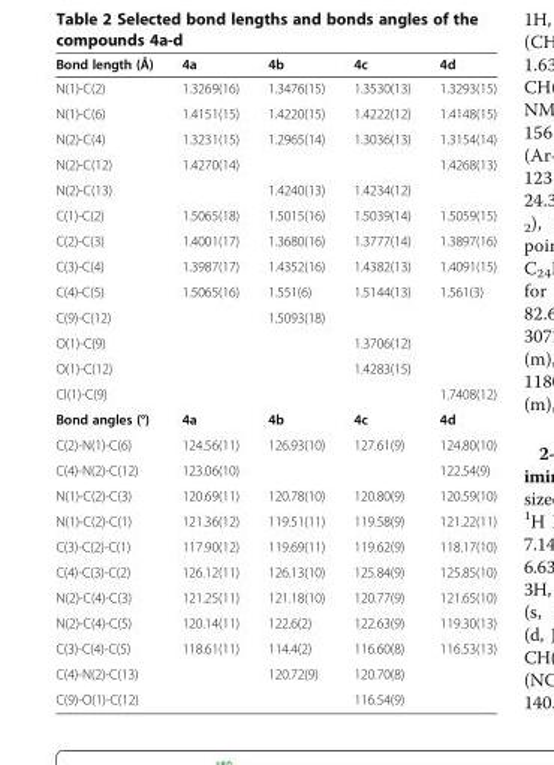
<table><thead><tr><td>Bond length (Å)</td><td>4a</td><td>4b</td><td>4c</td><td>4d</td></tr></thead><tbody><tr><td>N(1)-C(2)</td><td>1.3269(16)</td><td>1.3476(15)</td><td>1.3530(13)</td><td>1.3293(15)</td></tr><tr><td>N(1)-C(6)</td><td>1.4151(15)</td><td>1.4220(15)</td><td>1.4222(12)</td><td>1.4148(15)</td></tr><tr><td>N(2)-C(4)</td><td>1.3231(15)</td><td>1.2965(14)</td><td>1.3036(13)</td><td>1.3154(14)</td></tr><tr><td>N(2)-C(12)</td><td>1.4270(14)</td><td></td><td></td><td>1.4268(13)</td></tr><tr><td>N(2)-C(13)</td><td></td><td>1.4240(13)</td><td>1.4234(12)</td><td></td></tr><tr><td>C(1)-C(2)</td><td>1.5065(18)</td><td>1.5015(16)</td><td>1.5039(14)</td><td>1.5059(15)</td></tr><tr><td>C(2)-C(3)</td><td>1.4001(17)</td><td>1.3680(16)</td><td>1.3777(14)</td><td>1.3897(16)</td></tr><tr><td>C(3)-C(4)</td><td>1.3987(17)</td><td>1.4352(16)</td><td>1.4382(13)</td><td>1.4091(15)</td></tr><tr><td>C(4)-C(5)</td><td>1.5065(16)</td><td>1.551(6)</td><td>1.5144(13)</td><td>1.561(3)</td></tr><tr><td>C(9)-C(12)</td><td></td><td>1.5093(18)</td><td></td><td></td></tr><tr><td>O(1)-C(9)</td><td></td><td></td><td>1.3706(12)</td><td></td></tr><tr><td>O(1)-C(12)</td><td></td><td></td><td>1.4283(15)</td><td></td></tr><tr><td>Cl(1)-C(9)</td><td></td><td></td><td></td><td>1.7408(12)</td></tr><tr><td>Bond angles (°)</td><td>4a</td><td>4b</td><td>4c</td><td>4d</td></tr><tr><td>C(2)-N(1)-C(6)</td><td>124.56(11)</td><td>126.93(10)</td><td>127.61(9)</td><td>124.80(10)</td></tr><tr><td>C(4)-N(2)-C(12)</td><td>123.06(10)</td><td></td><td></td><td>122.54(9)</td></tr><tr><td>N(1)-C(2)-C(3)</td><td>120.69(11)</td><td>120.78(10)</td><td>120.80(9)</td><td>120.59(10)</td></tr><tr><td>N(1)-C(2)-C(1)</td><td>121.36(12)</td><td>119.51(11)</td><td>119.58(9)</td><td>121.22(11)</td></tr><tr><td>C(3)-C(2)-C(1)</td><td>117.90(12)</td><td>119.69(11)</td><td>119.62(9)</td><td>118.17(10)</td></tr><tr><td>C(4)-C(3)-C(2)</td><td>126.12(11)</td><td>126.13(10)</td><td>125.84(9)</td><td>125.85(10)</td></tr><tr><td>N(2)-C(4)-C(3)</td><td>121.25(11)</td><td>121.18(10)</td><td>120.77(9)</td><td>121.65(10)</td></tr><tr><td>N(2)-C(4)-C(5)</td><td>120.14(11)</td><td>122.6(2)</td><td>122.63(9)</td><td>119.30(13)</td></tr><tr><td>C(3)-C(4)-C(5)</td><td>118.61(11)</td><td>114.4(2)</td><td>116.60(8)</td><td>116.53(13)</td></tr><tr><td>C(4)-N(2)-C(13)</td><td></td><td>120.72(9)</td><td>120.70(8)</td><td></td></tr><tr><td>C(9)-O(1)-C(12)</td><td></td><td></td><td>116.54(9)</td><td></td></tr></tbody></table>